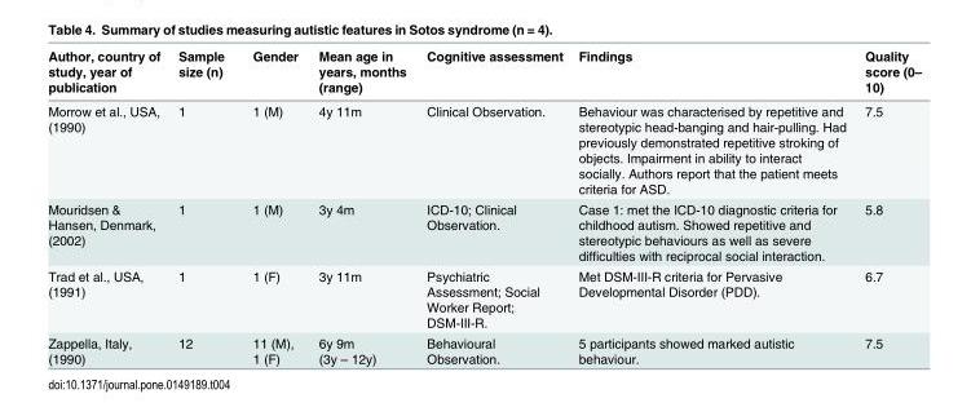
<table><thead><tr><td>Author, country of study, year of publication</td><td>Sample size (n)</td><td>Gender</td><td>Mean age in years, months (range)</td><td>Cognitive assessment</td><td>Findings</td><td>Quality score (0– 10)</td></tr></thead><tbody><tr><td>Morrow et al., USA, (1990)</td><td>1</td><td>1 (M)</td><td>4y 11m</td><td>Clinical Observation.</td><td>Behaviour was characterised by repetitive and stereotypic head-banging and hair-pulling. Had previously demonstrated repetitive stroking of objects. Impairment in ability to interact socially. Authors report that the patient meets criteria for ASD.</td><td>7.5</td></tr><tr><td>Mouridsen &amp; Hansen, Denmark, (2002)</td><td>1</td><td>1 (M)</td><td>3y 4m</td><td>ICD-10; Clinical Observation.</td><td>Case 1: met the ICD-10 diagnostic criteria for childhood autism. Showed repetitive and stereotypic behaviours as well as severe difficulties with reciprocal social interaction.</td><td>5.8</td></tr><tr><td>Trad et al., USA, (1991)</td><td>1</td><td>1 (F)</td><td>3y 11m</td><td>Psychiatric Assessment; Social Worker Report; DSM-III-R.</td><td>Met DSM-III-R criteria for Pervasive Developmental Disorder (PDD).</td><td>6.7</td></tr><tr><td>Zappella, Italy, (1990)</td><td>12</td><td>11 (M), 1 (F)</td><td>6y 9m (3y – 12y)</td><td>Behavioural Observation.</td><td>5 participants showed marked autistic behaviour.</td><td>7.5</td></tr></tbody></table>